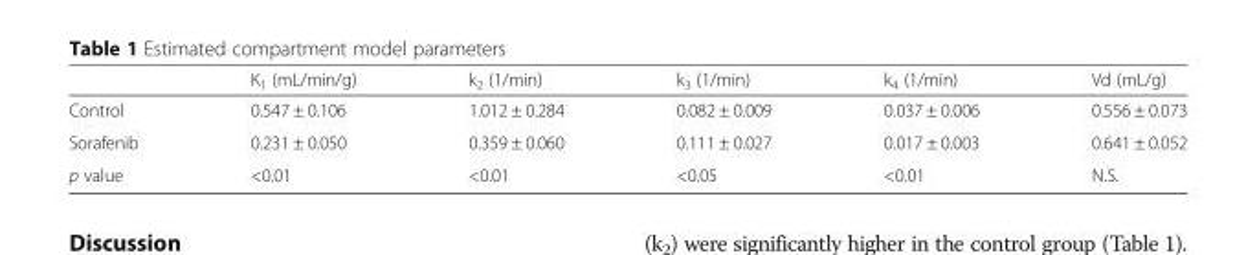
<table><thead><tr><td></td><td>K<sub>1</sub> (mL/min/g)</td><td>k<sub>2</sub> (1/min)</td><td>k<sub>3</sub> (1/min)</td><td>k<sub>4</sub> (1/min)</td><td>Vd (mL/g)</td></tr></thead><tbody><tr><td>Control</td><td>0.547 ± 0.106</td><td>1.012 ± 0.284</td><td>0.082 ± 0.009</td><td>0.037 ± 0.006</td><td>0.556 ± 0.073</td></tr><tr><td>Sorafenib</td><td>0.231 ± 0.050</td><td>0.359 ± 0.060</td><td>0.111 ± 0.027</td><td>0.017 ± 0.003</td><td>0.641 ± 0.052</td></tr><tr><td>p value</td><td>&lt;0.01</td><td>&lt;0.01</td><td>&lt;0.05</td><td>&lt;0.01</td><td>N.S.</td></tr></tbody></table>